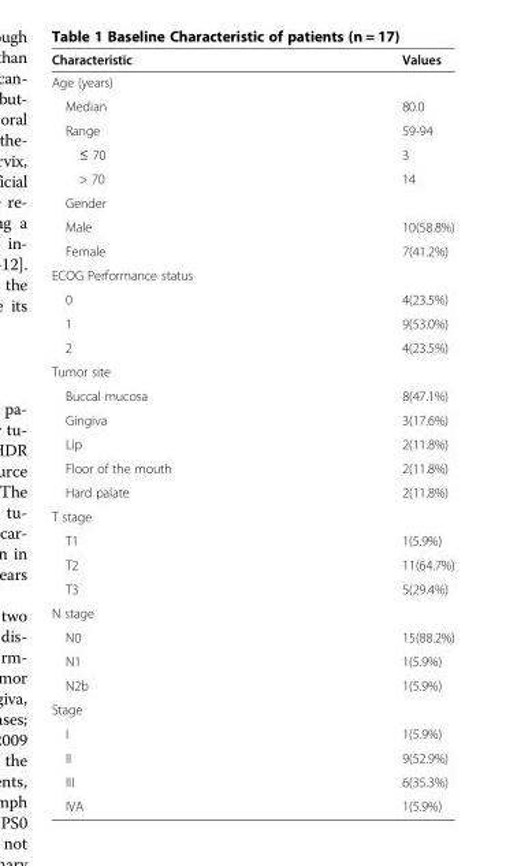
<table><thead><tr><td>Characteristic</td><td>Values</td></tr></thead><tbody><tr><td colspan="2">Age (years)</td></tr><tr><td>Median</td><td>80.0</td></tr><tr><td>Range</td><td>59-94</td></tr><tr><td>≤ 70</td><td>3</td></tr><tr><td>&gt; 70</td><td>14</td></tr><tr><td colspan="2">Gender</td></tr><tr><td>Male</td><td>10(58.8%)</td></tr><tr><td>Female</td><td>7(41.2%)</td></tr><tr><td colspan="2">ECOG Performance status</td></tr><tr><td>0</td><td>4(23.5%)</td></tr><tr><td>1</td><td>9(53.0%)</td></tr><tr><td>2</td><td>4(23.5%)</td></tr><tr><td colspan="2">Tumor site</td></tr><tr><td>Buccal mucosa</td><td>8(47.1%)</td></tr><tr><td>Gingiva</td><td>3(17.6%)</td></tr><tr><td>Lip</td><td>2(11.8%)</td></tr><tr><td>Floor of the mouth</td><td>2(11.8%)</td></tr><tr><td>Hard palate</td><td>2(11.8%)</td></tr><tr><td colspan="2">T stage</td></tr><tr><td>T1</td><td>1(5.9%)</td></tr><tr><td>T2</td><td>11(64.7%)</td></tr><tr><td>T3</td><td>5(29.4%)</td></tr><tr><td colspan="2">N stage</td></tr><tr><td>N0</td><td>15(88.2%)</td></tr><tr><td>N1</td><td>1(5.9%)</td></tr><tr><td>N2b</td><td>1(5.9%)</td></tr><tr><td colspan="2">Stage</td></tr><tr><td>I</td><td>1(5.9%)</td></tr><tr><td>II</td><td>9(52.9%)</td></tr><tr><td>III</td><td>6(35.3%)</td></tr><tr><td>IVA</td><td>1(5.9%)</td></tr></tbody></table>